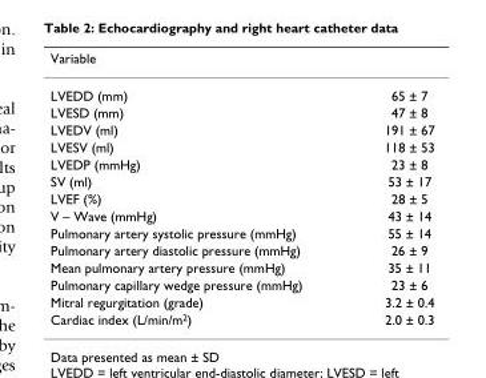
<table><thead><tr><td>Variable</td><td></td></tr></thead><tbody><tr><td>LVEDD (mm)</td><td>65 ± 7</td></tr><tr><td>LVESD (mm)</td><td>47 ± 8</td></tr><tr><td>LVEDV (ml)</td><td>191 ± 67</td></tr><tr><td>LVESV (ml)</td><td>118 ± 53</td></tr><tr><td>LVEDP (mmHg)</td><td>23 ± 8</td></tr><tr><td>SV (ml)</td><td>53 ± 17</td></tr><tr><td>LVEF (%)</td><td>28 ± 5</td></tr><tr><td>V – Wave (mmHg)</td><td>43 ± 14</td></tr><tr><td>Pulmonary artery systolic pressure (mmHg)</td><td>55 ± 14</td></tr><tr><td>Pulmonary artery diastolic pressure (mmHg)</td><td>26 ± 9</td></tr><tr><td>Mean pulmonary artery pressure (mmHg)</td><td>35 ± 11</td></tr><tr><td>Pulmonary capillary wedge pressure (mmHg)</td><td>23 ± 6</td></tr><tr><td>Mitral regurgitation (grade)</td><td>3.2 ± 0.4</td></tr><tr><td>Cardiac index (L/min/m<sup>2</sup>)</td><td>2.0 ± 0.3</td></tr></tbody></table>